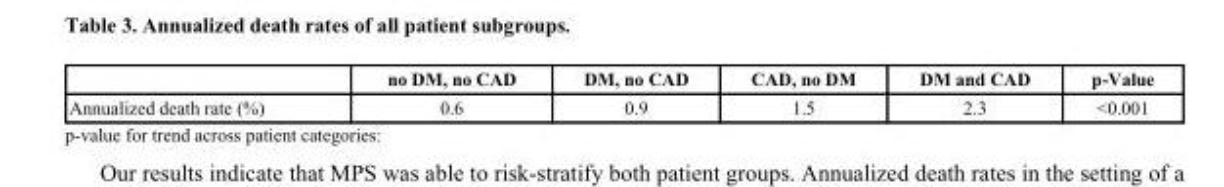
<table><thead><tr><td></td><td>no DM, no CAD</td><td>DM, no CAD</td><td>CAD, no DM</td><td>DM and CAD</td><td>p-Value</td></tr></thead><tbody><tr><td>Annualized death rate (%)</td><td>0.6</td><td>0.9</td><td>1.5</td><td>2.3</td><td>&lt;0.001</td></tr></tbody></table>